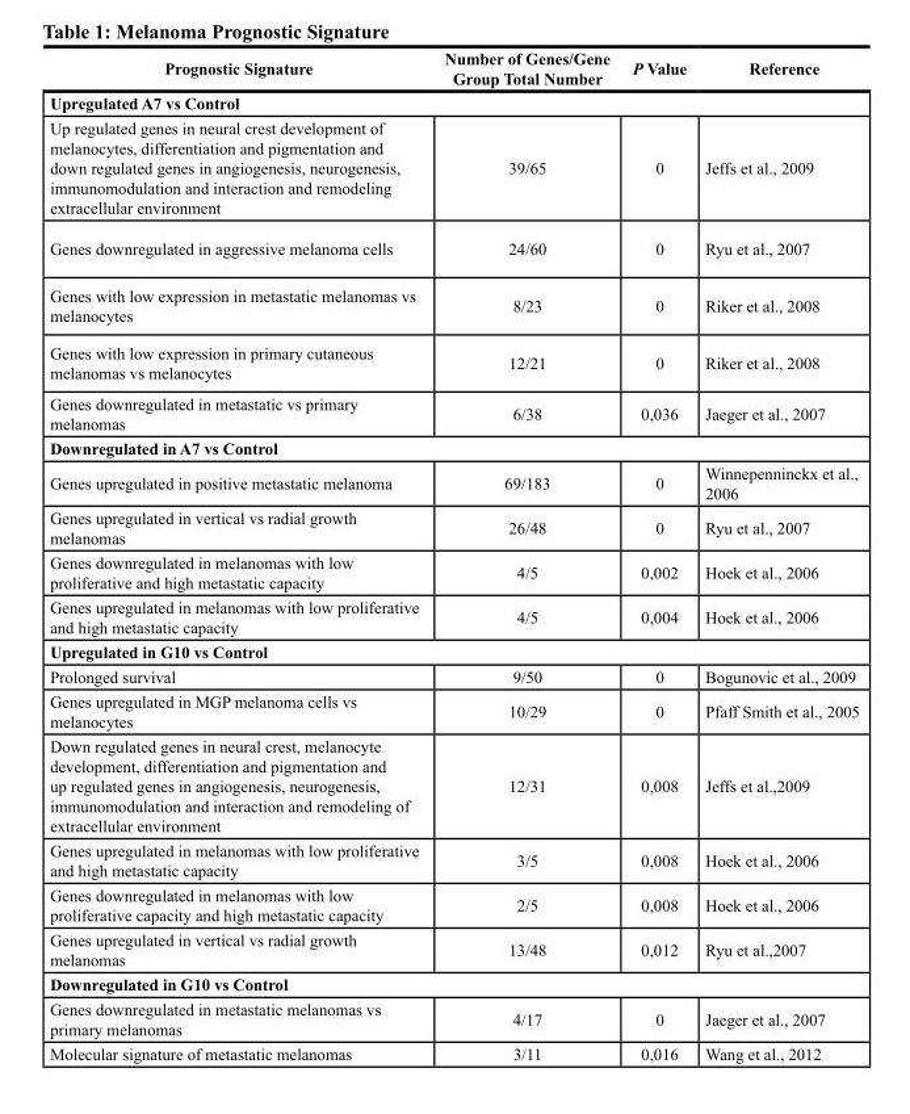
<table><thead><tr><td>Prognostic Signature</td><td>Number of Genes/Gene Group Total Number</td><td>P Value</td><td>Reference</td></tr></thead><tbody><tr><td colspan="4">Upregulated A7 vs Control</td></tr><tr><td>Up regulated genes in neural crest development of melanocytes, differentiation and pigmentation and down regulated genes in angiogenesis, neurogenesis, immunomodulation and interaction and remodeling extracellular environment</td><td>39/65</td><td>0</td><td>Jeffs et al., 2009</td></tr><tr><td>Genes downregulated in aggressive melanoma cells</td><td>24/60</td><td>0</td><td>Ryu et al., 2007</td></tr><tr><td>Genes with low expression in metastatic melanomas vs melanocytes</td><td>8/23</td><td>0</td><td>Riker et al., 2008</td></tr><tr><td>Genes with low expression in primary cutaneous melanomas vs melanocytes</td><td>12/21</td><td>0</td><td>Riker et al., 2008</td></tr><tr><td>Genes downregulated in metastatic vs primary melanomas</td><td>6/38</td><td>0,036</td><td>Jaeger et al., 2007</td></tr><tr><td colspan="4">Downregulated in A7 vs Control</td></tr><tr><td>Genes upregulated in positive metastatic melanoma</td><td>69/183</td><td>0</td><td>Winnepenninckx et al., 2006</td></tr><tr><td>Genes upregulated in vertical vs radial growth melanomas</td><td>26/48</td><td>0</td><td>Ryu et al., 2007</td></tr><tr><td>Genes downregulated in melanomas with low proliferative and high metastatic capacity</td><td>4/5</td><td>0,002</td><td>Hoek et al., 2006</td></tr><tr><td>Genes upregulated in melanomas with low proliferative and high metastatic capacity</td><td>4/5</td><td>0,004</td><td>Hoek et al., 2006</td></tr><tr><td colspan="4">Upregulated in G10 vs Control</td></tr><tr><td>Prolonged survival</td><td>9/50</td><td>0</td><td>Bogunovic et al., 2009</td></tr><tr><td>Genes upregulated in MGP melanoma cells vs melanocytes</td><td>10/29</td><td>0</td><td>Pfaff Smith et al., 2005</td></tr><tr><td>Down regulated genes in neural crest, melanocyte development, differentiation and pigmentation and up regulated genes in angiogenesis, neurogenesis, immunomodulation and interaction and remodeling of extracellular environment</td><td>12/31</td><td>0,008</td><td>Jeffs et al.,2009</td></tr><tr><td>Genes upregulated in melanomas with low proliferative and high metastatic capacity</td><td>3/5</td><td>0,008</td><td>Hoek et al., 2006</td></tr><tr><td>Genes downregulated in melanomas with low proliferative capacity and high metastatic capacity</td><td>2/5</td><td>0,008</td><td>Hoek et al., 2006</td></tr><tr><td>Genes upregulated in vertical vs radial growth melanomas</td><td>13/48</td><td>0,012</td><td>Ryu et al.,2007</td></tr><tr><td colspan="4">Downregulated in G10 vs Control</td></tr><tr><td>Genes downregulated in metastatic melanomas vs primary melanomas</td><td>4/17</td><td>0</td><td>Jaeger et al., 2007</td></tr><tr><td>Molecular signature of metastatic melanomas</td><td>3/11</td><td>0,016</td><td>Wang et al., 2012</td></tr></tbody></table>